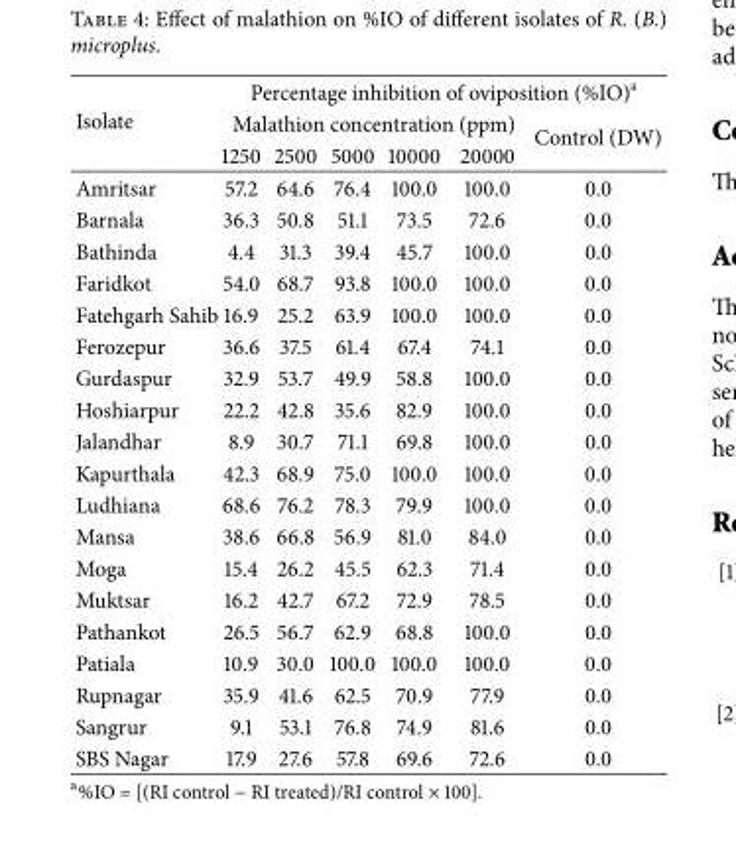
<table><thead><tr><td rowspan="3">Isolate</td><td colspan="6">Percentage inhibition of oviposition (%IO)<sup>a</sup></td></tr><tr><td colspan="5">Malathion concentration (ppm)</td><td rowspan="2">Control (DW)</td></tr><tr><td>1250</td><td>2500</td><td>5000</td><td>10000</td><td>20000</td></tr></thead><tbody><tr><td>Amritsar</td><td>57.2</td><td>64.6</td><td>76.4</td><td>100.0</td><td>100.0</td><td>0.0</td></tr><tr><td>Barnala</td><td>36.3</td><td>50.8</td><td>51.1</td><td>73.5</td><td>72.6</td><td>0.0</td></tr><tr><td>Bathinda</td><td>4.4</td><td>31.3</td><td>39.4</td><td>45.7</td><td>100.0</td><td>0.0</td></tr><tr><td>Faridkot</td><td>54.0</td><td>68.7</td><td>93.8</td><td>100.0</td><td>100.0</td><td>0.0</td></tr><tr><td>Fatehgarh Sahib</td><td>16.9</td><td>25.2</td><td>63.9</td><td>100.0</td><td>100.0</td><td>0.0</td></tr><tr><td>Ferozepur</td><td>36.6</td><td>37.5</td><td>61.4</td><td>67.4</td><td>74.1</td><td>0.0</td></tr><tr><td>Gurdaspur</td><td>32.9</td><td>53.7</td><td>49.9</td><td>58.8</td><td>100.0</td><td>0.0</td></tr><tr><td>Hoshiarpur</td><td>22.2</td><td>42.8</td><td>35.6</td><td>82.9</td><td>100.0</td><td>0.0</td></tr><tr><td>Jalandhar</td><td>8.9</td><td>30.7</td><td>71.1</td><td>69.8</td><td>100.0</td><td>0.0</td></tr><tr><td>Kapurthala</td><td>42.3</td><td>68.9</td><td>75.0</td><td>100.0</td><td>100.0</td><td>0.0</td></tr><tr><td>Ludhiana</td><td>68.6</td><td>76.2</td><td>78.3</td><td>79.9</td><td>100.0</td><td>0.0</td></tr><tr><td>Mansa</td><td>38.6</td><td>66.8</td><td>56.9</td><td>81.0</td><td>84.0</td><td>0.0</td></tr><tr><td>Moga</td><td>15.4</td><td>26.2</td><td>45.5</td><td>62.3</td><td>71.4</td><td>0.0</td></tr><tr><td>Muktsar</td><td>16.2</td><td>42.7</td><td>67.2</td><td>72.9</td><td>78.5</td><td>0.0</td></tr><tr><td>Pathankot</td><td>26.5</td><td>56.7</td><td>62.9</td><td>68.8</td><td>100.0</td><td>0.0</td></tr><tr><td>Patiala</td><td>10.9</td><td>30.0</td><td>100.0</td><td>100.0</td><td>100.0</td><td>0.0</td></tr><tr><td>Rupnagar</td><td>35.9</td><td>41.6</td><td>62.5</td><td>70.9</td><td>77.9</td><td>0.0</td></tr><tr><td>Sangrur</td><td>9.1</td><td>53.1</td><td>76.8</td><td>74.9</td><td>81.6</td><td>0.0</td></tr><tr><td>SBS Nagar</td><td>17.9</td><td>27.6</td><td>57.8</td><td>69.6</td><td>72.6</td><td>0.0</td></tr></tbody></table>